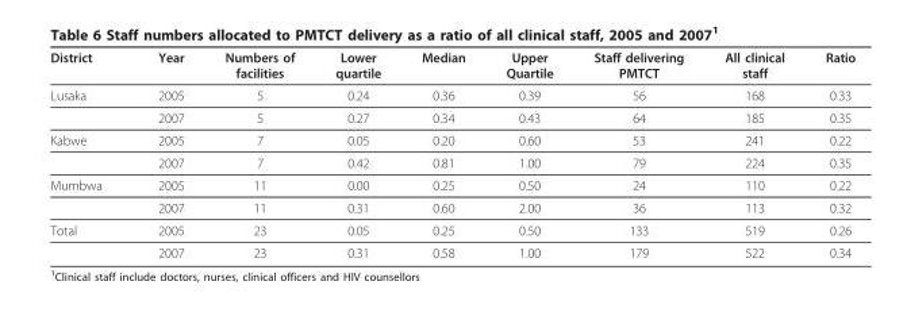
<table><thead><tr><td>District</td><td>Year</td><td>Numbers of facilities</td><td>Lower quartile</td><td>Median</td><td>Upper Quartile</td><td>Staff delivering PMTCT</td><td>All clinical staff</td><td>Ratio</td></tr></thead><tbody><tr><td rowspan="2">Lusaka</td><td>2005</td><td>5</td><td>0.24</td><td>0.36</td><td>0.39</td><td>56</td><td>168</td><td>0.33</td></tr><tr><td>2007</td><td>5</td><td>0.27</td><td>0.34</td><td>0.43</td><td>64</td><td>185</td><td>0.35</td></tr><tr><td rowspan="2">Kabwe</td><td>2005</td><td>7</td><td>0.05</td><td>0.20</td><td>0.60</td><td>53</td><td>241</td><td>0.22</td></tr><tr><td>2007</td><td>7</td><td>0.42</td><td>0.81</td><td>1.00</td><td>79</td><td>224</td><td>0.35</td></tr><tr><td rowspan="2">Mumbwa</td><td>2005</td><td>11</td><td>0.00</td><td>0.25</td><td>0.50</td><td>24</td><td>110</td><td>0.22</td></tr><tr><td>2007</td><td>11</td><td>0.31</td><td>0.60</td><td>2.00</td><td>36</td><td>113</td><td>0.32</td></tr><tr><td rowspan="2">Total</td><td>2005</td><td>23</td><td>0.05</td><td>0.25</td><td>0.50</td><td>133</td><td>519</td><td>0.26</td></tr><tr><td>2007</td><td>23</td><td>0.31</td><td>0.58</td><td>1.00</td><td>179</td><td>522</td><td>0.34</td></tr></tbody></table>